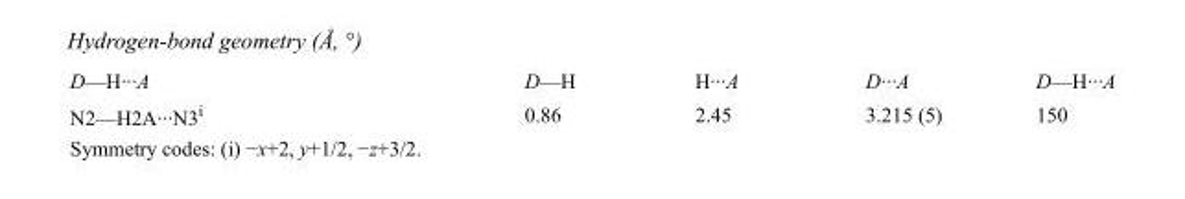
<table><tbody><tr><td>D—H···A</td><td>D—H</td><td>H···A</td><td>D···A</td><td>D—H···A</td></tr><tr><td>N2—H2A···N3<sup>i</sup></td><td>0.86</td><td>2.45</td><td>3.215 (5)</td><td>150</td></tr></tbody></table>